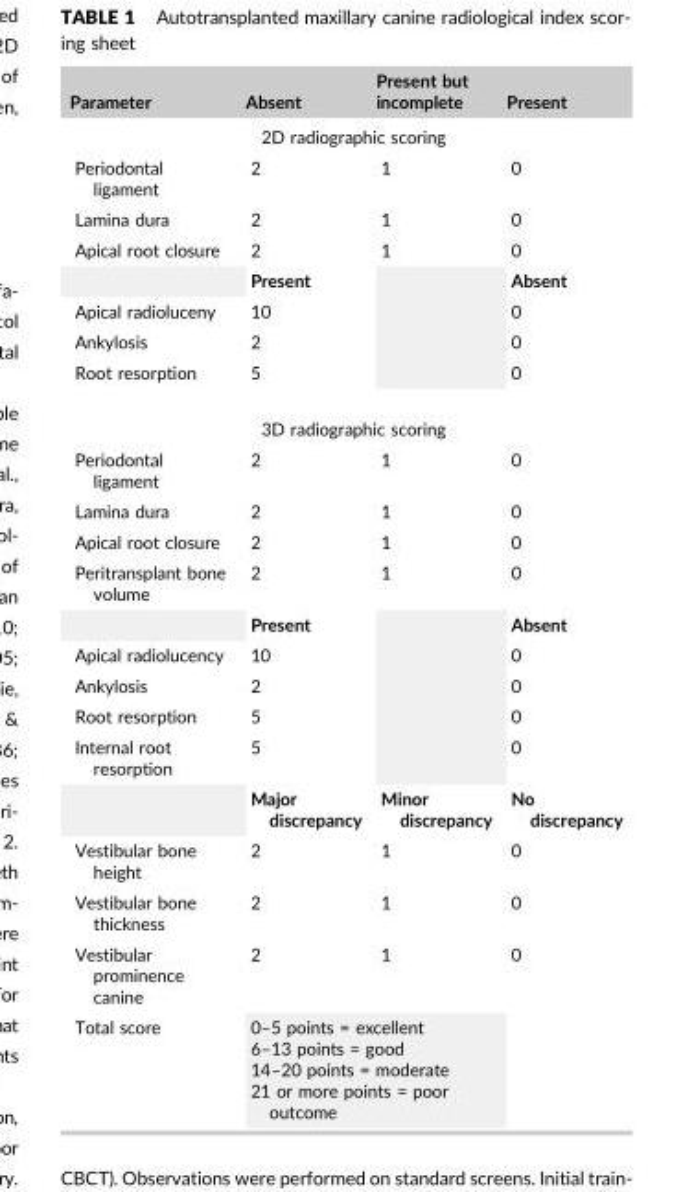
<table><thead><tr><td>Parameter</td><td>Absent</td><td>Present but incomplete</td><td>Present</td></tr></thead><tbody><tr><td colspan="4">2D radiographic scoring</td></tr><tr><td>Periodontal ligament</td><td>2</td><td>1</td><td>0</td></tr><tr><td>Lamina dura</td><td>2</td><td>1</td><td>0</td></tr><tr><td rowspan="2">Apical root closure</td><td>2</td><td>1</td><td>0</td></tr><tr><td>Present</td><td rowspan="4"></td><td>Absent</td></tr><tr><td>Apical radioluceny</td><td>10</td><td>0</td></tr><tr><td>Ankylosis</td><td>2</td><td>0</td></tr><tr><td>Root resorption</td><td>5</td><td>0</td></tr><tr><td colspan="4">3D radiographic scoring</td></tr><tr><td>Periodontal ligament</td><td>2</td><td>1</td><td>0</td></tr><tr><td>Lamina dura</td><td>2</td><td>1</td><td>0</td></tr><tr><td>Apical root closure</td><td>2</td><td>1</td><td>0</td></tr><tr><td rowspan="2">Peritransplant bone volume</td><td>2</td><td>1</td><td>0</td></tr><tr><td>Present</td><td rowspan="5"></td><td>Absent</td></tr><tr><td>Apical radiolucency</td><td>10</td><td>0</td></tr><tr><td>Ankylosis</td><td>2</td><td>0</td></tr><tr><td>Root resorption</td><td>5</td><td>0</td></tr><tr><td rowspan="2">Internal root resorption</td><td>5</td><td>0</td></tr><tr><td>Major discrepancy</td><td>Minor discrepancy</td><td>No discrepancy</td></tr><tr><td>Vestibular bone height</td><td>2</td><td>1</td><td>0</td></tr><tr><td>Vestibular bone thickness</td><td>2</td><td>1</td><td>0</td></tr><tr><td>Vestibular prominence canine</td><td>2</td><td>1</td><td>0</td></tr><tr><td>Total score</td><td colspan="2">0–5 points = excellent 6–13 points = good 14–20 points = moderate 21 or more points = poor outcome</td><td></td></tr></tbody></table>